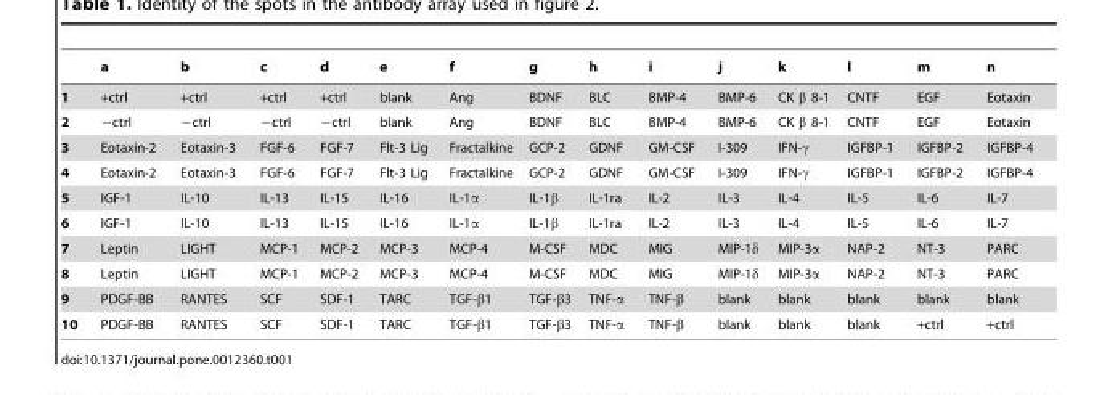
<table><thead><tr><td></td><td>a</td><td>b</td><td>c</td><td>d</td><td>e</td><td>f</td><td>g</td><td>h</td><td>i</td><td>j</td><td>k</td><td>l</td><td>m</td><td>n</td></tr></thead><tbody><tr><td>1</td><td>+ctrl</td><td>+ctrl</td><td>+ctrl</td><td>+ctrl</td><td>blank</td><td>Ang</td><td>BDNF</td><td>BLC</td><td>BMP-4</td><td>BMP-6</td><td>CK β 8-1</td><td>CNTF</td><td>EGF</td><td>Eotaxin</td></tr><tr><td>2</td><td>−ctrl</td><td>−ctrl</td><td>−ctrl</td><td>−ctrl</td><td>blank</td><td>Ang</td><td>BDNF</td><td>BLC</td><td>BMP-4</td><td>BMP-6</td><td>CK β 8-1</td><td>CNTF</td><td>EGF</td><td>Eotaxin</td></tr><tr><td>3</td><td>Eotaxin-2</td><td>Eotaxin-3</td><td>FGF-6</td><td>FGF-7</td><td>Flt-3 Lig</td><td>Fractalkine</td><td>GCP-2</td><td>GDNF</td><td>GM-CSF</td><td>I-309</td><td>IFN-γ</td><td>IGFBP-1</td><td>IGFBP-2</td><td>IGFBP-4</td></tr><tr><td>4</td><td>Eotaxin-2</td><td>Eotaxin-3</td><td>FGF-6</td><td>FGF-7</td><td>Flt-3 Lig</td><td>Fractalkine</td><td>GCP-2</td><td>GDNF</td><td>GM-CSF</td><td>I-309</td><td>IFN-γ</td><td>IGFBP-1</td><td>IGFBP-2</td><td>IGFBP-4</td></tr><tr><td>5</td><td>IGF-1</td><td>IL-10</td><td>IL-13</td><td>IL-15</td><td>IL-16</td><td>IL-1α</td><td>IL-1β</td><td>IL-1ra</td><td>IL-2</td><td>IL-3</td><td>IL-4</td><td>IL-5</td><td>IL-6</td><td>IL-7</td></tr><tr><td>6</td><td>IGF-1</td><td>IL-10</td><td>IL-13</td><td>IL-15</td><td>IL-16</td><td>IL-1α</td><td>IL-1β</td><td>IL-1ra</td><td>IL-2</td><td>IL-3</td><td>IL-4</td><td>IL-5</td><td>IL-6</td><td>IL-7</td></tr><tr><td>7</td><td>Leptin</td><td>LIGHT</td><td>MCP-1</td><td>MCP-2</td><td>MCP-3</td><td>MCP-4</td><td>M-CSF</td><td>MDC</td><td>MIG</td><td>MIP-1δ</td><td>MIP-3α</td><td>NAP-2</td><td>NT-3</td><td>PARC</td></tr><tr><td>8</td><td>Leptin</td><td>LIGHT</td><td>MCP-1</td><td>MCP-2</td><td>MCP-3</td><td>MCP-4</td><td>M-CSF</td><td>MDC</td><td>MIG</td><td>MIP-1δ</td><td>MIP-3α</td><td>NAP-2</td><td>NT-3</td><td>PARC</td></tr><tr><td>9</td><td>PDGF-BB</td><td>RANTES</td><td>SCF</td><td>SDF-1</td><td>TARC</td><td>TGF-β1</td><td>TGF-β3</td><td>TNF-α</td><td>TNF-β</td><td>blank</td><td>blank</td><td>blank</td><td>blank</td><td>blank</td></tr><tr><td>10</td><td>PDGF-BB</td><td>RANTES</td><td>SCF</td><td>SDF-1</td><td>TARC</td><td>TGF-β1</td><td>TGF-β3</td><td>TNF-α</td><td>TNF-β</td><td>blank</td><td>blank</td><td>blank</td><td>+ctrl</td><td>+ctrl</td></tr></tbody></table>